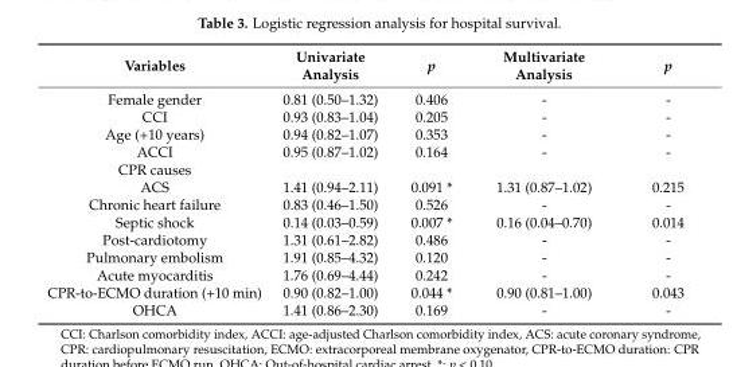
<table><thead><tr><td>Variables</td><td>Univariate Analysis</td><td>p</td><td>Multivariate Analysis</td><td>p</td></tr></thead><tbody><tr><td>Female gender</td><td>0.81 (0.50–1.32)</td><td>0.406</td><td>-</td><td>-</td></tr><tr><td>CCI</td><td>0.93 (0.83–1.04)</td><td>0.205</td><td>-</td><td>-</td></tr><tr><td>Age (+10 years)</td><td>0.94 (0.82–1.07)</td><td>0.353</td><td>-</td><td>-</td></tr><tr><td>ACCI</td><td>0.95 (0.87–1.02)</td><td>0.164</td><td>-</td><td>-</td></tr><tr><td colspan="5">CPR causes</td></tr><tr><td>ACS</td><td>1.41 (0.94–2.11)</td><td>0.091 *</td><td>1.31 (0.87–1.02)</td><td>0.215</td></tr><tr><td>Chronic heart failure</td><td>0.83 (0.46–1.50)</td><td>0.526</td><td>-</td><td>-</td></tr><tr><td>Septic shock</td><td>0.14 (0.03–0.59)</td><td>0.007 *</td><td>0.16 (0.04–0.70)</td><td>0.014</td></tr><tr><td>Post-cardiotomy</td><td>1.31 (0.61–2.82)</td><td>0.486</td><td>-</td><td>-</td></tr><tr><td>Pulmonary embolism</td><td>1.91 (0.85–4.32)</td><td>0.120</td><td>-</td><td>-</td></tr><tr><td>Acute myocarditis</td><td>1.76 (0.69–4.44)</td><td>0.242</td><td>-</td><td>-</td></tr><tr><td>CPR-to-ECMO duration (+10 min)</td><td>0.90 (0.82–1.00)</td><td>0.044 *</td><td>0.90 (0.81–1.00)</td><td>0.043</td></tr><tr><td>OHCA</td><td>1.41 (0.86–2.30)</td><td>0.169</td><td>-</td><td>-</td></tr></tbody></table>